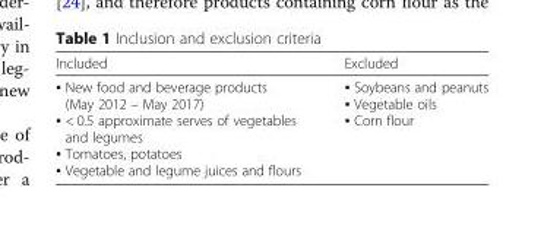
<table><thead><tr><td>Included</td><td>Excluded</td></tr></thead><tbody><tr><td>▪ New food and beverage products (May 2012 – May 2017) ▪ &lt; 0.5 approximate serves of vegetables and legumes ▪ Tomatoes, potatoes ▪ Vegetable and legume juices and flours</td><td>▪ Soybeans and peanuts ▪ Vegetable oils ▪ Corn flour</td></tr></tbody></table>